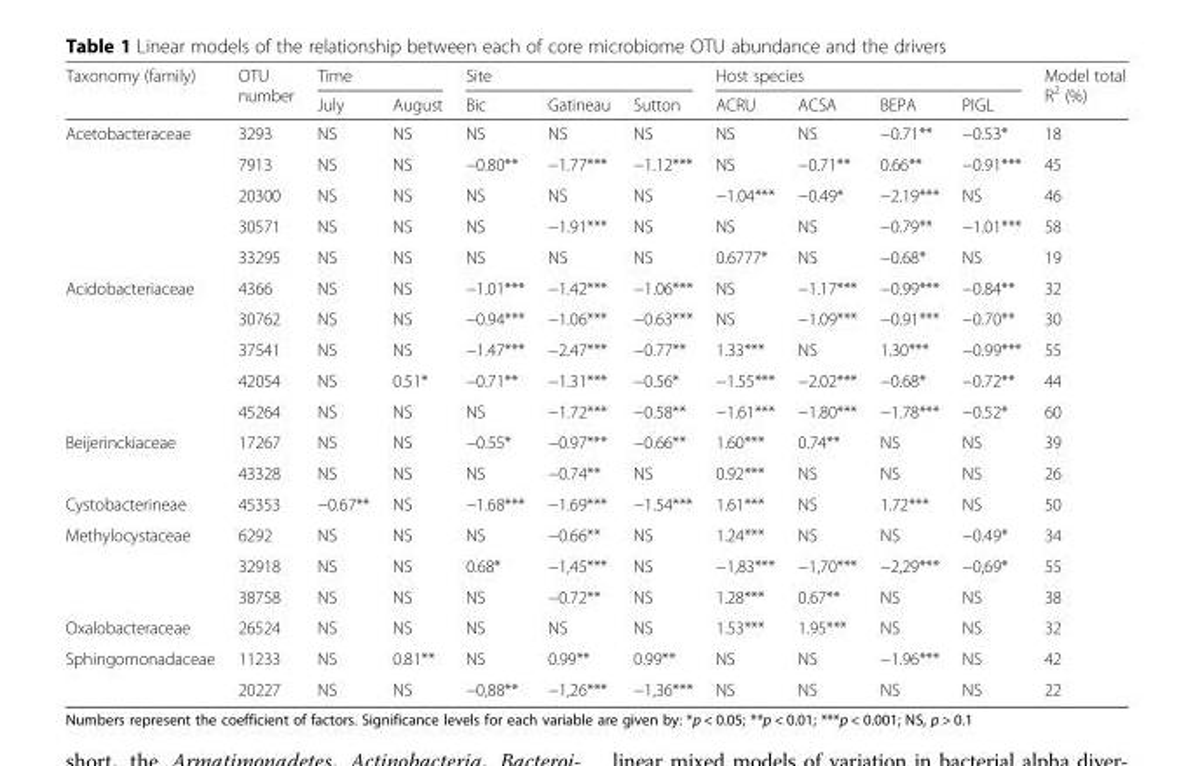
<table><thead><tr><td rowspan="2">Taxonomy (family)</td><td rowspan="2">OTU number</td><td colspan="2">Time</td><td colspan="3">Site</td><td colspan="4">Host species</td><td rowspan="2">Model total R<sup>2</sup> (%)</td></tr><tr><td>July</td><td>August</td><td>Bic</td><td>Gatineau</td><td>Sutton</td><td>ACRU</td><td>ACSA</td><td>BEPA</td><td>PIGL</td></tr></thead><tbody><tr><td rowspan="5">Acetobacteraceae</td><td>3293</td><td>NS</td><td>NS</td><td>NS</td><td>NS</td><td>NS</td><td>NS</td><td>NS</td><td>−0.71**</td><td>−0.53*</td><td>18</td></tr><tr><td>7913</td><td>NS</td><td>NS</td><td>−0.80**</td><td>−1.77***</td><td>−1.12***</td><td>NS</td><td>−0.71**</td><td>0.66**</td><td>−0.91***</td><td>45</td></tr><tr><td>20300</td><td>NS</td><td>NS</td><td>NS</td><td>NS</td><td>NS</td><td>−1.04***</td><td>−0.49*</td><td>−2.19***</td><td>NS</td><td>46</td></tr><tr><td>30571</td><td>NS</td><td>NS</td><td>NS</td><td>−1.91***</td><td>NS</td><td>NS</td><td>NS</td><td>−0.79**</td><td>−1.01***</td><td>58</td></tr><tr><td>33295</td><td>NS</td><td>NS</td><td>NS</td><td>NS</td><td>NS</td><td>0.6777*</td><td>NS</td><td>−0.68*</td><td>NS</td><td>19</td></tr><tr><td rowspan="5">Acidobacteriaceae</td><td>4366</td><td>NS</td><td>NS</td><td>−1.01***</td><td>−1.42***</td><td>−1.06***</td><td>NS</td><td>−1.17***</td><td>−0.99***</td><td>−0.84**</td><td>32</td></tr><tr><td>30762</td><td>NS</td><td>NS</td><td>−0.94***</td><td>−1.06***</td><td>−0.63***</td><td>NS</td><td>−1.09***</td><td>−0.91***</td><td>−0.70**</td><td>30</td></tr><tr><td>37541</td><td>NS</td><td>NS</td><td>−1.47***</td><td>−2.47***</td><td>−0.77**</td><td>1.33***</td><td>NS</td><td>1.30***</td><td>−0.99***</td><td>55</td></tr><tr><td>42054</td><td>NS</td><td>0.51*</td><td>−0.71**</td><td>−1.31***</td><td>−0.56*</td><td>−1.55***</td><td>−2.02***</td><td>−0.68*</td><td>−0.72**</td><td>44</td></tr><tr><td>45264</td><td>NS</td><td>NS</td><td>NS</td><td>−1.72***</td><td>−0.58**</td><td>−1.61***</td><td>−1.80***</td><td>−1.78***</td><td>−0.52*</td><td>60</td></tr><tr><td rowspan="2">Beijerinckiaceae</td><td>17267</td><td>NS</td><td>NS</td><td>−0.55*</td><td>−0.97***</td><td>−0.66**</td><td>1.60***</td><td>0.74**</td><td>NS</td><td>NS</td><td>39</td></tr><tr><td>43328</td><td>NS</td><td>NS</td><td>NS</td><td>−0.74**</td><td>NS</td><td>0.92***</td><td>NS</td><td>NS</td><td>NS</td><td>26</td></tr><tr><td>Cystobacterineae</td><td>45353</td><td>−0.67**</td><td>NS</td><td>−1.68***</td><td>−1.69***</td><td>−1.54***</td><td>1.61***</td><td>NS</td><td>1.72***</td><td>NS</td><td>50</td></tr><tr><td rowspan="3">Methylocystaceae</td><td>6292</td><td>NS</td><td>NS</td><td>NS</td><td>−0.66**</td><td>NS</td><td>1.24***</td><td>NS</td><td>NS</td><td>−0.49*</td><td>34</td></tr><tr><td>32918</td><td>NS</td><td>NS</td><td>0.68*</td><td>−1,45***</td><td>NS</td><td>−1,83***</td><td>−1,70***</td><td>−2,29***</td><td>−0,69*</td><td>55</td></tr><tr><td>38758</td><td>NS</td><td>NS</td><td>NS</td><td>−0.72**</td><td>NS</td><td>1.28***</td><td>0.67**</td><td>NS</td><td>NS</td><td>38</td></tr><tr><td>Oxalobacteraceae</td><td>26524</td><td>NS</td><td>NS</td><td>NS</td><td>NS</td><td>NS</td><td>1.53***</td><td>1.95***</td><td>NS</td><td>NS</td><td>32</td></tr><tr><td rowspan="2">Sphingomonadaceae</td><td>11233</td><td>NS</td><td>0.81**</td><td>NS</td><td>0.99**</td><td>0.99**</td><td>NS</td><td>NS</td><td>−1.96***</td><td>NS</td><td>42</td></tr><tr><td>20227</td><td>NS</td><td>NS</td><td>−0,88**</td><td>−1,26***</td><td>−1,36***</td><td>NS</td><td>NS</td><td>NS</td><td>NS</td><td>22</td></tr></tbody></table>